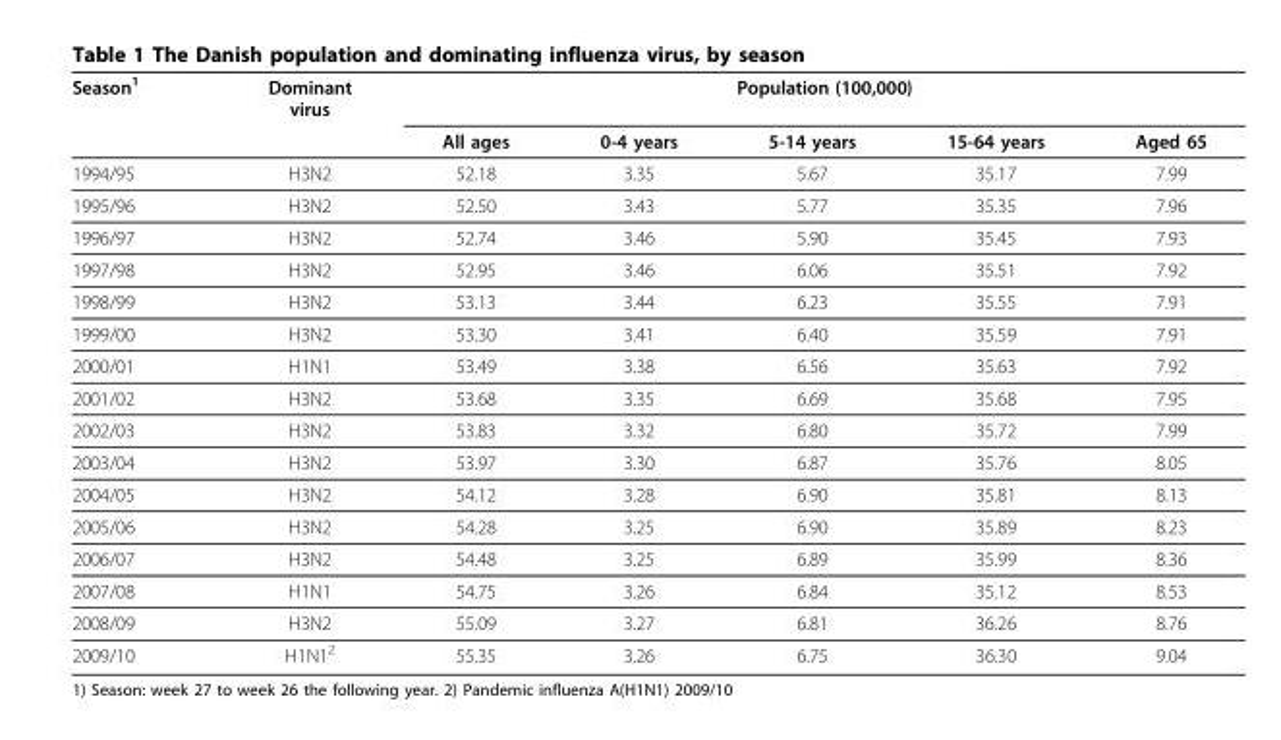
<table><thead><tr><td rowspan="2">Season<sup>1</sup></td><td rowspan="2">Dominant virus</td><td colspan="5">Population (100,000)</td></tr><tr><td>All ages</td><td>0-4 years</td><td>5-14 years</td><td>15-64 years</td><td>Aged 65</td></tr></thead><tbody><tr><td>1994/95</td><td>H3N2</td><td>52.18</td><td>3.35</td><td>5.67</td><td>35.17</td><td>7.99</td></tr><tr><td>1995/96</td><td>H3N2</td><td>52.50</td><td>3.43</td><td>5.77</td><td>35.35</td><td>7.96</td></tr><tr><td>1996/97</td><td>H3N2</td><td>52.74</td><td>3.46</td><td>5.90</td><td>35.45</td><td>7.93</td></tr><tr><td>1997/98</td><td>H3N2</td><td>52.95</td><td>3.46</td><td>6.06</td><td>35.51</td><td>7.92</td></tr><tr><td>1998/99</td><td>H3N2</td><td>53.13</td><td>3.44</td><td>6.23</td><td>35.55</td><td>7.91</td></tr><tr><td>1999/00</td><td>H3N2</td><td>53.30</td><td>3.41</td><td>6.40</td><td>35.59</td><td>7.91</td></tr><tr><td>2000/01</td><td>H1N1</td><td>53.49</td><td>3.38</td><td>6.56</td><td>35.63</td><td>7.92</td></tr><tr><td>2001/02</td><td>H3N2</td><td>53.68</td><td>3.35</td><td>6.69</td><td>35.68</td><td>7.95</td></tr><tr><td>2002/03</td><td>H3N2</td><td>53.83</td><td>3.32</td><td>6.80</td><td>35.72</td><td>7.99</td></tr><tr><td>2003/04</td><td>H3N2</td><td>53.97</td><td>3.30</td><td>6.87</td><td>35.76</td><td>8.05</td></tr><tr><td>2004/05</td><td>H3N2</td><td>54.12</td><td>3.28</td><td>6.90</td><td>35.81</td><td>8.13</td></tr><tr><td>2005/06</td><td>H3N2</td><td>54.28</td><td>3.25</td><td>6.90</td><td>35.89</td><td>8.23</td></tr><tr><td>2006/07</td><td>H3N2</td><td>54.48</td><td>3.25</td><td>6.89</td><td>35.99</td><td>8.36</td></tr><tr><td>2007/08</td><td>H1N1</td><td>54.75</td><td>3.26</td><td>6.84</td><td>35.12</td><td>8.53</td></tr><tr><td>2008/09</td><td>H3N2</td><td>55.09</td><td>3.27</td><td>6.81</td><td>36.26</td><td>8.76</td></tr><tr><td>2009/10</td><td>H1N1<sup>2</sup></td><td>55.35</td><td>3.26</td><td>6.75</td><td>36.30</td><td>9.04</td></tr></tbody></table>